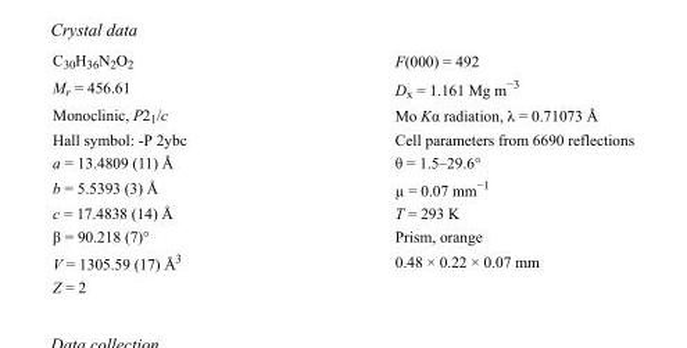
<table><tbody><tr><td>C<sub>30</sub>H<sub>36</sub>N<sub>2</sub>O<sub>2</sub></td><td>F(000) = 492</td></tr><tr><td>M<sub>r</sub> = 456.61</td><td>D<sub>x</sub> = 1.161 Mg m<sup>−3</sup></td></tr><tr><td>Monoclinic, P2<sub>1</sub>/c</td><td>Mo Kα radiation, λ = 0.71073 Å</td></tr><tr><td>Hall symbol: -P 2ybc</td><td>Cell parameters from 6690 reflections</td></tr><tr><td>a = 13.4809 (11) Å</td><td>θ = 1.5–29.6°</td></tr><tr><td>b = 5.5393 (3) Å</td><td>µ = 0.07 mm<sup>−1</sup></td></tr><tr><td>c = 17.4838 (14) Å</td><td>T = 293 K</td></tr><tr><td>β = 90.218 (7)°</td><td>Prism, orange</td></tr><tr><td>V = 1305.59 (17) Å<sup>3</sup></td><td>0.48 × 0.22 × 0.07 mm</td></tr><tr><td>Z = 2</td><td></td></tr></tbody></table>